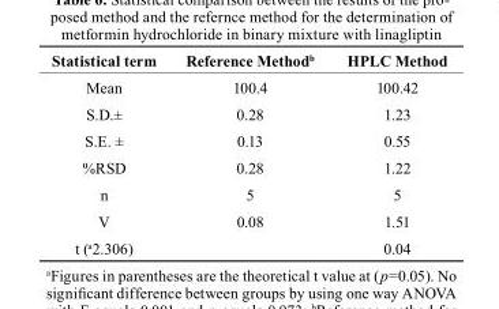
<table><thead><tr><td>statistical term</td><td>Reference Method<sup>b</sup></td><td>HPLC Method</td></tr></thead><tbody><tr><td>Mean</td><td>100.4</td><td>100.42</td></tr><tr><td>S.D.±</td><td>0.28</td><td>1.23</td></tr><tr><td>S.E. ±</td><td>0.13</td><td>0.55</td></tr><tr><td>%RSD</td><td>0.28</td><td>1.22</td></tr><tr><td>n</td><td>5</td><td>5</td></tr><tr><td>V</td><td>0.08</td><td>1.51</td></tr><tr><td>t (a2.306)</td><td></td><td>0.04</td></tr></tbody></table>